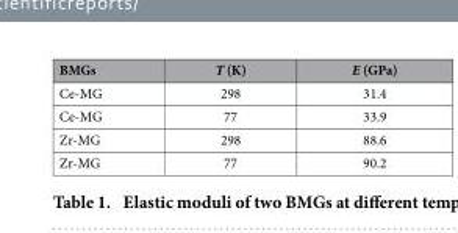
<table><thead><tr><td>BMGs</td><td>T (K)</td><td>E (GPa)</td></tr></thead><tbody><tr><td>Ce-MG</td><td>298</td><td>31.4</td></tr><tr><td>Ce-MG</td><td>77</td><td>33.9</td></tr><tr><td>Zr-MG</td><td>298</td><td>88.6</td></tr><tr><td>Zr-MG</td><td>77</td><td>90.2</td></tr></tbody></table>